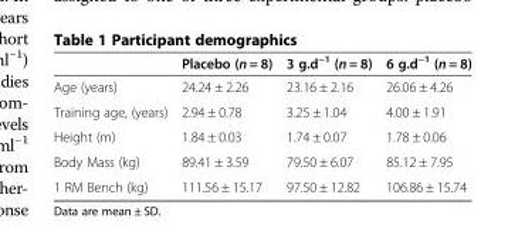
<table><thead><tr><td></td><td>Placebo (n = 8)</td><td>3 g.d<sup>−1</sup> (n = 8)</td><td>6 g.d<sup>−1</sup> (n = 8)</td></tr></thead><tbody><tr><td>Age (years)</td><td>24.24 ± 2.26</td><td>23.16 ± 2.16</td><td>26.06 ± 4.26</td></tr><tr><td>Training age, (years)</td><td>2.94 ± 0.78</td><td>3.25 ± 1.04</td><td>4.00 ± 1.91</td></tr><tr><td>Height (m)</td><td>1.84 ± 0.03</td><td>1.74 ± 0.07</td><td>1.78 ± 0.06</td></tr><tr><td>Body Mass (kg)</td><td>89.41 ± 3.59</td><td>79.50 ± 6.07</td><td>85.12 ± 7.95</td></tr><tr><td>1 RM Bench (kg)</td><td>111.56 ± 15.17</td><td>97.50 ± 12.82</td><td>106.86 ± 15.74</td></tr></tbody></table>